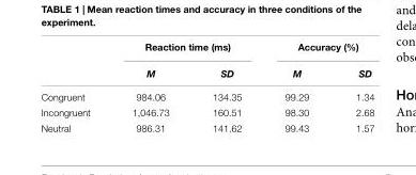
<table><thead><tr><td rowspan="2"></td><td colspan="2">Reaction time (ms)</td><td colspan="2">Accuracy (%)</td></tr><tr><td>M</td><td>SD</td><td>M</td><td>SD</td></tr></thead><tbody><tr><td>Congruent</td><td>984.06</td><td>134.35</td><td>99.29</td><td>1.34</td></tr><tr><td>Incongruent</td><td>1,046.73</td><td>160.51</td><td>98.30</td><td>2.68</td></tr><tr><td>Neutral</td><td>986.31</td><td>141.62</td><td>99.43</td><td>1.57</td></tr></tbody></table>